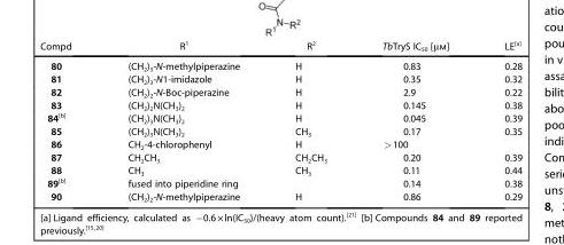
<table><thead><tr><td>Compd</td><td>R<sup>1</sup></td><td>R<sup>2</sup></td><td>TbTryS IC<sub>50</sub> [μm]</td><td>LE<sup>[a]</sup></td></tr></thead><tbody><tr><td>80</td><td>(CH<sub>2</sub>)<sub>3</sub>-N-methylpiperazine</td><td>H</td><td>0.83</td><td>0.28</td></tr><tr><td>81</td><td>(CH<sub>2</sub>)<sub>3</sub>-N1-imidazole</td><td>H</td><td>0.35</td><td>0.32</td></tr><tr><td>82</td><td>(CH<sub>2</sub>)<sub>2</sub>-N-Boc-piperazine</td><td>H</td><td>2.9</td><td>0.22</td></tr><tr><td>83</td><td>(CH<sub>2</sub>)<sub>2</sub>N(CH<sub>3</sub>)<sub>2</sub></td><td>H</td><td>0.145</td><td>0.38</td></tr><tr><td>84<sup>[b]</sup></td><td>(CH<sub>2</sub>)<sub>3</sub>N(CH<sub>3</sub>)<sub>2</sub></td><td>H</td><td>0.045</td><td>0.39</td></tr><tr><td>85</td><td>(CH<sub>2</sub>)<sub>3</sub>N(CH<sub>3</sub>)<sub>2</sub></td><td>CH<sub>3</sub></td><td>0.17</td><td>0.35</td></tr><tr><td>86</td><td>CH<sub>2</sub>-4-chlorophenyl</td><td>H</td><td>&gt;100</td><td></td></tr><tr><td>87</td><td>CH<sub>2</sub>CH<sub>3</sub></td><td>CH<sub>2</sub>CH<sub>3</sub></td><td>0.20</td><td>0.39</td></tr><tr><td>88</td><td>CH<sub>3</sub></td><td>CH<sub>3</sub></td><td>0.11</td><td>0.44</td></tr><tr><td>89<sup>[b]</sup></td><td>fused into piperidine ring</td><td></td><td>0.14</td><td>0.38</td></tr><tr><td>90</td><td>(CH<sub>2</sub>)<sub>2</sub>-N-methylpiperazine</td><td>H</td><td>0.86</td><td>0.29</td></tr></tbody></table>